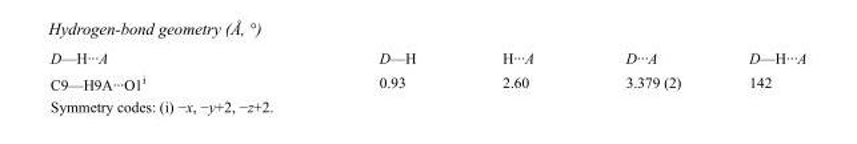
<table><tbody><tr><td>D—H···A</td><td>D—H</td><td>H···A</td><td>D···A</td><td>D—H···A</td></tr><tr><td>C9—H9A···O1<sup>i</sup></td><td>0.93</td><td>2.60</td><td>3.379 (2)</td><td>142</td></tr></tbody></table>